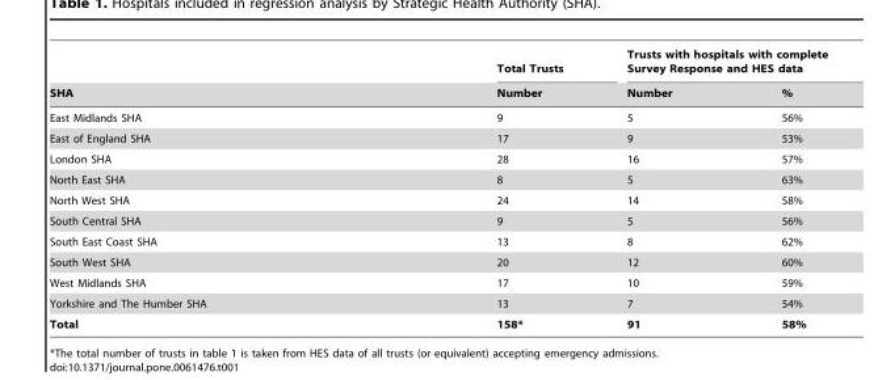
<table><thead><tr><td rowspan="2">SHA</td><td rowspan="2">Total Trusts Number</td><td colspan="2">Trusts with hospitals with complete Survey Response and HES data</td></tr><tr><td>Number</td><td>%</td></tr></thead><tbody><tr><td>East Midlands SHA</td><td>9</td><td>5</td><td>56%</td></tr><tr><td>East of England SHA</td><td>17</td><td>9</td><td>53%</td></tr><tr><td>London SHA</td><td>28</td><td>16</td><td>57%</td></tr><tr><td>North East SHA</td><td>8</td><td>5</td><td>63%</td></tr><tr><td>North West SHA</td><td>24</td><td>14</td><td>58%</td></tr><tr><td>South Central SHA</td><td>9</td><td>5</td><td>56%</td></tr><tr><td>South East Coast SHA</td><td>13</td><td>8</td><td>62%</td></tr><tr><td>South West SHA</td><td>20</td><td>12</td><td>60%</td></tr><tr><td>West Midlands SHA</td><td>17</td><td>10</td><td>59%</td></tr><tr><td>Yorkshire and The Humber SHA</td><td>13</td><td>7</td><td>54%</td></tr><tr><td>Total</td><td>158*</td><td>91</td><td>58%</td></tr></tbody></table>